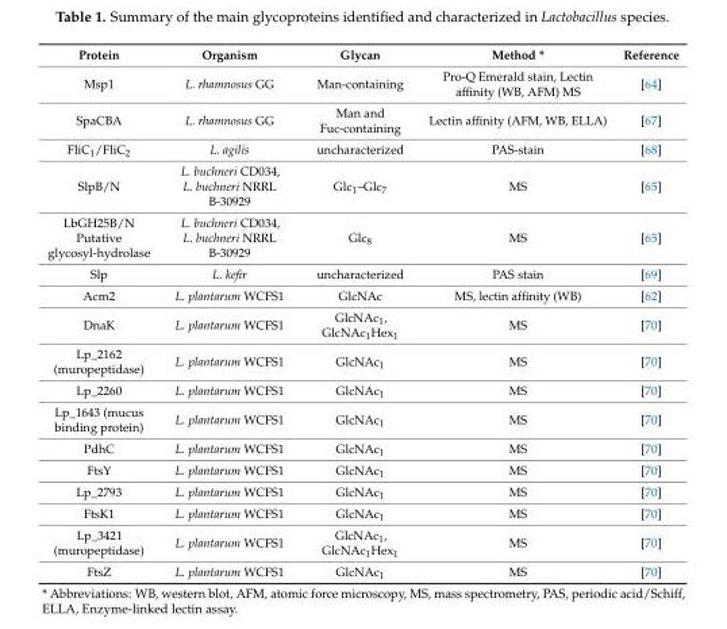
<table><thead><tr><td>Protein</td><td>Organism</td><td>Glycan</td><td>Method *</td><td>Reference</td></tr></thead><tbody><tr><td>Msp1</td><td>L. rhamnosus GG</td><td>Man-containing</td><td>Pro-Q Emerald stain, Lectin affinity (WB, AFM) MS</td><td>[64]</td></tr><tr><td>SpaCBA</td><td>L. rhamnosus GG</td><td>Man and Fuc-containing</td><td>Lectin affinity (AFM, WB, ELLA)</td><td>[67]</td></tr><tr><td>FliC<sub>1</sub>/FliC<sub>2</sub></td><td>L. agilis</td><td>uncharacterized</td><td>PAS-stain</td><td>[68]</td></tr><tr><td>SlpB/N</td><td>L. buchneri CD034, L. buchneri NRRL B-30929</td><td>Glc<sub>1</sub>–Glc<sub>7</sub></td><td>MS</td><td>[65]</td></tr><tr><td>LbGH25B/N Putative glycosyl-hydrolase</td><td>L. buchneri CD034, L. buchneri NRRL B-30929</td><td>Glc<sub>8</sub></td><td>MS</td><td>[65]</td></tr><tr><td>Slp</td><td>L. kefir</td><td>uncharacterized</td><td>PAS stain</td><td>[69]</td></tr><tr><td>Acm2</td><td>L. plantarum WCFS1</td><td>GlcNAc</td><td>MS, lectin affinity (WB)</td><td>[62]</td></tr><tr><td>DnaK</td><td>L. plantarum WCFS1</td><td>GlcNAc<sub>1</sub>, GlcNAc<sub>1</sub>Hex<sub>1</sub></td><td>MS</td><td>[70]</td></tr><tr><td>Lp_2162 (muropeptidase)</td><td>L. plantarum WCFS1</td><td>GlcNAc<sub>1</sub></td><td>MS</td><td>[70]</td></tr><tr><td>Lp_2260</td><td>L. plantarum WCFS1</td><td>GlcNAc<sub>1</sub></td><td>MS</td><td>[70]</td></tr><tr><td>Lp_1643 (mucus binding protein)</td><td>L. plantarum WCFS1</td><td>GlcNAc<sub>1</sub></td><td>MS</td><td>[70]</td></tr><tr><td>PdhC</td><td>L. plantarum WCFS1</td><td>GlcNAc<sub>1</sub></td><td>MS</td><td>[70]</td></tr><tr><td>FtsY</td><td>L. plantarum WCFS1</td><td>GlcNAc<sub>1</sub></td><td>MS</td><td>[70]</td></tr><tr><td>Lp_2793</td><td>L. plantarum WCFS1</td><td>GlcNAc<sub>1</sub></td><td>MS</td><td>[70]</td></tr><tr><td>FtsK1</td><td>L. plantarum WCFS1</td><td>GlcNAc<sub>1</sub></td><td>MS</td><td>[70]</td></tr><tr><td>Lp_3421 (muropeptidase)</td><td>L. plantarum WCFS1</td><td>GlcNAc<sub>1</sub>, GlcNAc<sub>1</sub>Hex<sub>1</sub></td><td>MS</td><td>[70]</td></tr><tr><td>FtsZ</td><td>L. plantarum WCFS1</td><td>GlcNAc<sub>1</sub></td><td>MS</td><td>[70]</td></tr></tbody></table>